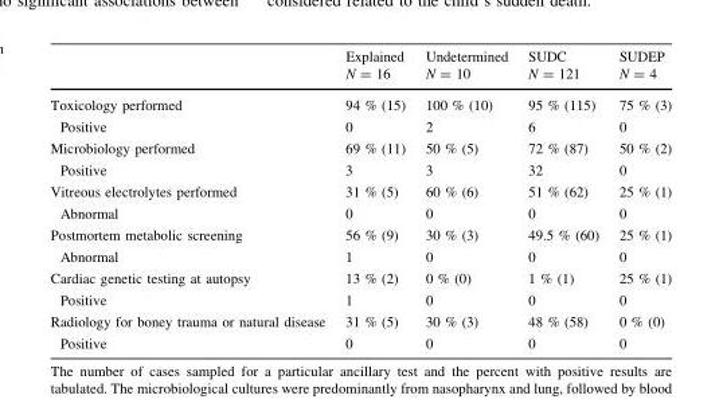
<table><thead><tr><td rowspan="2"></td><td rowspan="2">Explained N = 16</td><td rowspan="2">Undetermined N = 10</td><td rowspan="2">SUDC N = 121</td><td rowspan="2">SUDEP N = 4</td></tr><tr></tr></thead><tbody><tr><td>Toxicology performed</td><td>94 % (15)</td><td>100 % (10)</td><td>95 % (115)</td><td>75 % (3)</td></tr><tr><td>Positive</td><td>0</td><td>2</td><td>6</td><td>0</td></tr><tr><td>Microbiology performed</td><td>69 % (11)</td><td>50 % (5)</td><td>72 % (87)</td><td>50 % (2)</td></tr><tr><td>Positive</td><td>3</td><td>3</td><td>32</td><td>0</td></tr><tr><td>Vitreous electrolytes performed</td><td>31 % (5)</td><td>60 % (6)</td><td>51 % (62)</td><td>25 % (1)</td></tr><tr><td>Abnormal</td><td>0</td><td>0</td><td>0</td><td>0</td></tr><tr><td>Postmortem metabolic screening</td><td>56 % (9)</td><td>30 % (3)</td><td>49.5 % (60)</td><td>25 % (1)</td></tr><tr><td>Abnormal</td><td>1</td><td>0</td><td>0</td><td>0</td></tr><tr><td>Cardiac genetic testing at autopsy</td><td>13 % (2)</td><td>0 % (0)</td><td>1 % (1)</td><td>25 % (1)</td></tr><tr><td>Positive</td><td>1</td><td>0</td><td>0</td><td>0</td></tr><tr><td>Radiology for boney trauma or natural disease</td><td>31 % (5)</td><td>30 % (3)</td><td>48 % (58)</td><td>0 % (0)</td></tr><tr><td>Positive</td><td>0</td><td>0</td><td>0</td><td>0</td></tr></tbody></table>